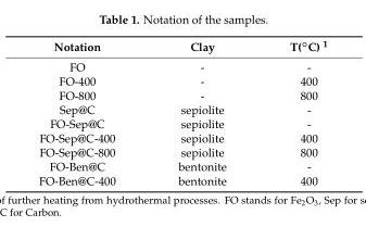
<table><thead><tr><td>Notation</td><td>Clay</td><td>T(◦C) 1</td></tr></thead><tbody><tr><td>FO</td><td>-</td><td>-</td></tr><tr><td>FO-400</td><td>-</td><td>400</td></tr><tr><td>FO-800</td><td>-</td><td>800</td></tr><tr><td>Sep@C</td><td>sepiolite</td><td>-</td></tr><tr><td>FO-Sep@C</td><td>sepiolite</td><td>-</td></tr><tr><td>FO-Sep@C-400</td><td>sepiolite</td><td>400</td></tr><tr><td>FO-Sep@C-800</td><td>sepiolite</td><td>800</td></tr><tr><td>FO-Ben@C</td><td>bentonite</td><td>-</td></tr><tr><td>FO-Ben@C-400</td><td>bentonite</td><td>400</td></tr></tbody></table>